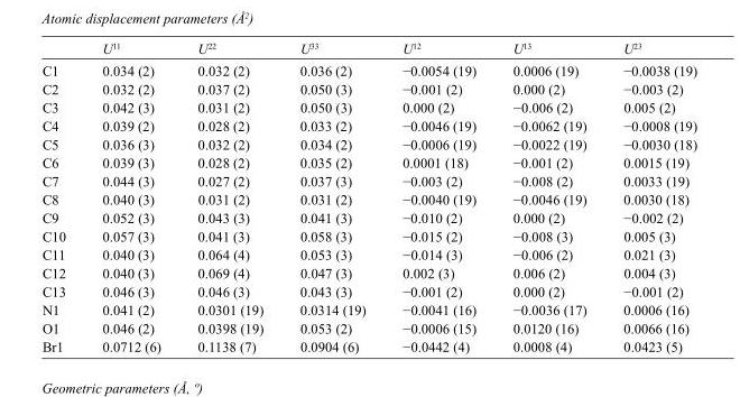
<table><thead><tr><td></td><td>U<sup>11</sup></td><td>U<sup>22</sup></td><td>U<sup>33</sup></td><td>U<sup>12</sup></td><td>U<sup>13</sup></td><td>U<sup>23</sup></td></tr></thead><tbody><tr><td>C1</td><td>0.034 (2)</td><td>0.032 (2)</td><td>0.036 (2)</td><td>−0.0054 (19)</td><td>0.0006 (19)</td><td>−0.0038 (19)</td></tr><tr><td>C2</td><td>0.032 (2)</td><td>0.037 (2)</td><td>0.050 (3)</td><td>−0.001 (2)</td><td>0.000 (2)</td><td>−0.003 (2)</td></tr><tr><td>C3</td><td>0.042 (3)</td><td>0.031 (2)</td><td>0.050 (3)</td><td>0.000 (2)</td><td>−0.006 (2)</td><td>0.005 (2)</td></tr><tr><td>C4</td><td>0.039 (2)</td><td>0.028 (2)</td><td>0.033 (2)</td><td>−0.0046 (19)</td><td>−0.0062 (19)</td><td>−0.0008 (19)</td></tr><tr><td>C5</td><td>0.036 (3)</td><td>0.032 (2)</td><td>0.034 (2)</td><td>−0.0006 (19)</td><td>−0.0022 (19)</td><td>−0.0030 (18)</td></tr><tr><td>C6</td><td>0.039 (3)</td><td>0.028 (2)</td><td>0.035 (2)</td><td>0.0001 (18)</td><td>−0.001 (2)</td><td>0.0015 (19)</td></tr><tr><td>C7</td><td>0.044 (3)</td><td>0.027 (2)</td><td>0.037 (3)</td><td>−0.003 (2)</td><td>−0.008 (2)</td><td>0.0033 (19)</td></tr><tr><td>C8</td><td>0.040 (3)</td><td>0.031 (2)</td><td>0.031 (2)</td><td>−0.0040 (19)</td><td>−0.0046 (19)</td><td>0.0030 (18)</td></tr><tr><td>C9</td><td>0.052 (3)</td><td>0.043 (3)</td><td>0.041 (3)</td><td>−0.010 (2)</td><td>0.000 (2)</td><td>−0.002 (2)</td></tr><tr><td>C10</td><td>0.057 (3)</td><td>0.041 (3)</td><td>0.058 (3)</td><td>−0.015 (2)</td><td>−0.008 (3)</td><td>0.005 (3)</td></tr><tr><td>C11</td><td>0.040 (3)</td><td>0.064 (4)</td><td>0.053 (3)</td><td>−0.014 (3)</td><td>−0.006 (2)</td><td>0.021 (3)</td></tr><tr><td>C12</td><td>0.040 (3)</td><td>0.069 (4)</td><td>0.047 (3)</td><td>0.002 (3)</td><td>0.006 (2)</td><td>0.004 (3)</td></tr><tr><td>C13</td><td>0.046 (3)</td><td>0.046 (3)</td><td>0.043 (3)</td><td>−0.001 (2)</td><td>0.000 (2)</td><td>−0.001 (2)</td></tr><tr><td>N1</td><td>0.041 (2)</td><td>0.0301 (19)</td><td>0.0314 (19)</td><td>−0.0041 (16)</td><td>−0.0036 (17)</td><td>0.0006 (16)</td></tr><tr><td>O1</td><td>0.046 (2)</td><td>0.0398 (19)</td><td>0.053 (2)</td><td>−0.0006 (15)</td><td>0.0120 (16)</td><td>0.0066 (16)</td></tr><tr><td>Br1</td><td>0.0712 (6)</td><td>0.1138 (7)</td><td>0.0904 (6)</td><td>−0.0442 (4)</td><td>0.0008 (4)</td><td>0.0423 (5)</td></tr></tbody></table>